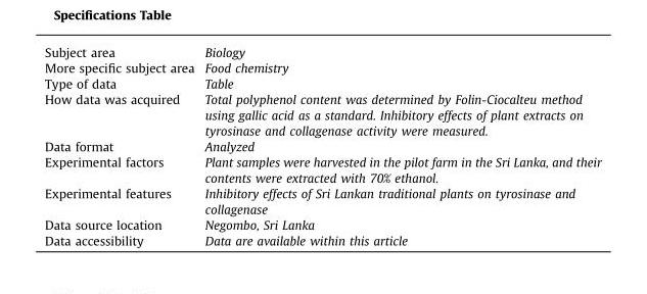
<table><tbody><tr><td>Subject area</td><td>Biology</td></tr><tr><td>More specific subject area</td><td>Food chemistry</td></tr><tr><td>Type of data</td><td>Table</td></tr><tr><td>How data was acquired</td><td>Total polyphenol content was determined by Folin-Ciocalteu method using gallic acid as a standard. Inhibitory effects of plant extracts on tyrosinase and collagenase activity were measured.</td></tr><tr><td>Data format</td><td>Analyzed</td></tr><tr><td>Experimental factors</td><td>Plant samples were harvested in the pilot farm in the Sri Lanka, and their contents were extracted with 70% ethanol.</td></tr><tr><td>Experimental features</td><td>Inhibitory effects of Sri Lankan traditional plants on tyrosinase and collagenase</td></tr><tr><td>Data source location</td><td>Negombo, Sri Lanka</td></tr><tr><td>Data accessibility</td><td>Data are available within this article</td></tr></tbody></table>